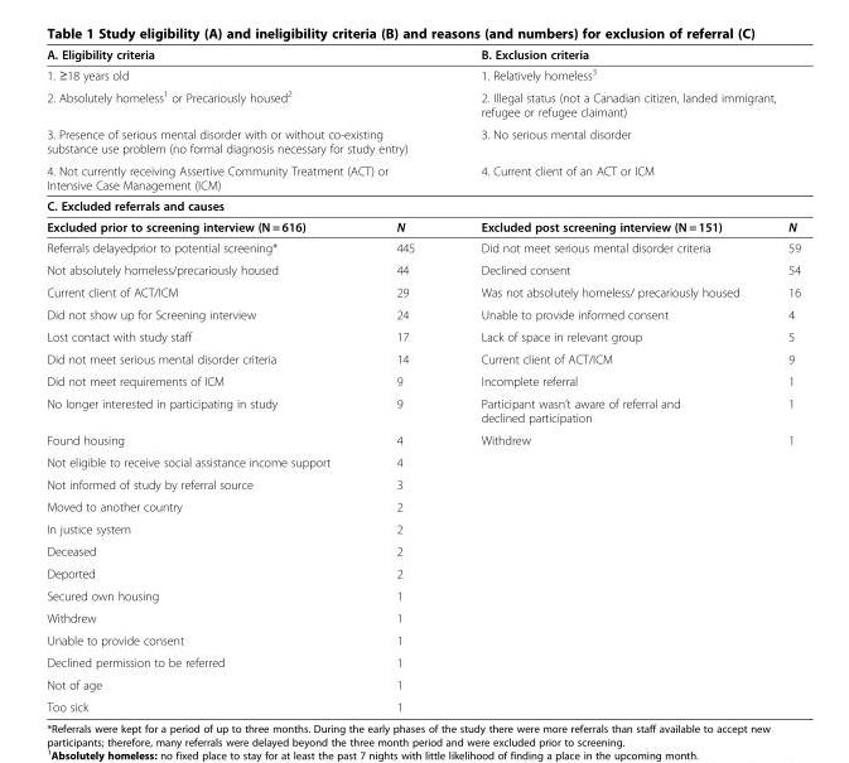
<table><tbody><tr><td colspan="2">A. Eligibility criteria</td><td colspan="2">B. Exclusion criteria</td></tr><tr><td colspan="2">1. ≥18 years old</td><td colspan="2">1. Relatively homeless<sup>3</sup></td></tr><tr><td colspan="2">2. Absolutely homeless<sup>1</sup> or Precariously housed<sup>2</sup></td><td colspan="2">2. Illegal status (not a Canadian citizen, landed immigrant, refugee or refugee claimant)</td></tr><tr><td colspan="2">3. Presence of serious mental disorder with or without co-existing substance use problem (no formal diagnosis necessary for study entry)</td><td colspan="2">3. No serious mental disorder</td></tr><tr><td colspan="2">4. Not currently receiving Assertive Community Treatment (ACT) or Intensive Case Management (ICM)</td><td colspan="2">4. Current client of an ACT or ICM</td></tr><tr><td colspan="4">C. Excluded referrals and causes</td></tr><tr><td>Excluded prior to screening interview (N = 616)</td><td>N</td><td>Excluded post screening interview (N = 151)</td><td>N</td></tr><tr><td>Referrals delayedprior to potential screening*</td><td>445</td><td>Did not meet serious mental disorder criteria</td><td>59</td></tr><tr><td>Not absolutely homeless/precariously housed</td><td>44</td><td>Declined consent</td><td>54</td></tr><tr><td>Current client of ACT/ICM</td><td>29</td><td>Was not absolutely homeless/ precariously housed</td><td>16</td></tr><tr><td>Did not show up for Screening interview</td><td>24</td><td>Unable to provide informed consent</td><td>4</td></tr><tr><td>Lost contact with study staff</td><td>17</td><td>Lack of space in relevant group</td><td>5</td></tr><tr><td>Did not meet serious mental disorder criteria</td><td>14</td><td>Current client of ACT/ICM</td><td>9</td></tr><tr><td>Did not meet requirements of ICM</td><td>9</td><td>Incomplete referral</td><td>1</td></tr><tr><td>No longer interested in participating in study</td><td>9</td><td>Participant wasn’t aware of referral and declined participation</td><td>1</td></tr><tr><td>Found housing</td><td>4</td><td>Withdrew</td><td>1</td></tr><tr><td>Not eligible to receive social assistance income support</td><td>4</td><td></td><td></td></tr><tr><td>Not informed of study by referral source</td><td>3</td><td></td><td></td></tr><tr><td>Moved to another country</td><td>2</td><td></td><td></td></tr><tr><td>In justice system</td><td>2</td><td></td><td></td></tr><tr><td>Deceased</td><td>2</td><td></td><td></td></tr><tr><td>Deported</td><td>2</td><td></td><td></td></tr><tr><td>Secured own housing</td><td>1</td><td></td><td></td></tr><tr><td>Withdrew</td><td>1</td><td></td><td></td></tr><tr><td>Unable to provide consent</td><td>1</td><td></td><td></td></tr><tr><td>Declined permission to be referred</td><td>1</td><td></td><td></td></tr><tr><td>Not of age</td><td>1</td><td></td><td></td></tr><tr><td>Too sick</td><td>1</td><td></td><td></td></tr></tbody></table>